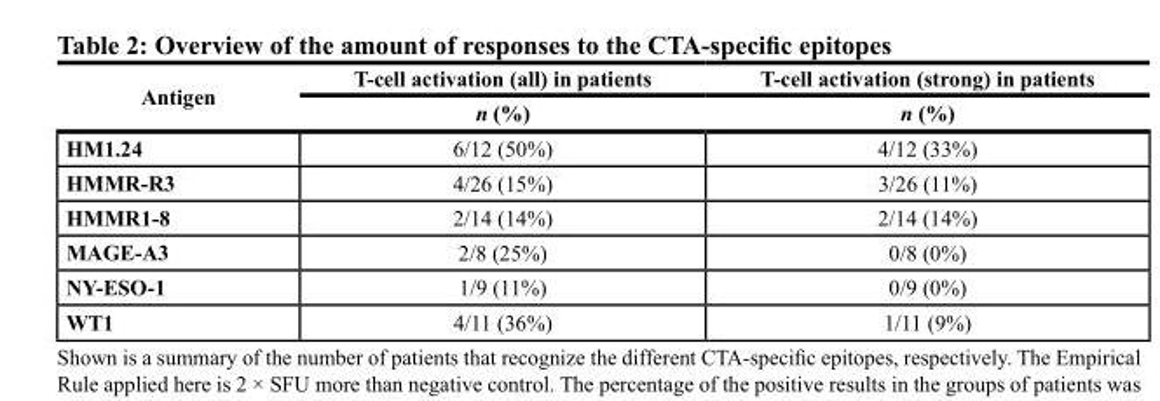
<table><thead><tr><td rowspan="2">Antigen</td><td rowspan="2">T-cell activation (all) in patients n (%)</td><td rowspan="2">T-cell activation (strong) in patients n (%)</td></tr><tr></tr></thead><tbody><tr><td>HM1.24</td><td>6/12 (50%)</td><td>4/12 (33%)</td></tr><tr><td>HMMR-R3</td><td>4/26 (15%)</td><td>3/26 (11%)</td></tr><tr><td>HMMR1-8</td><td>2/14 (14%)</td><td>2/14 (14%)</td></tr><tr><td>MAGE-A3</td><td>2/8 (25%)</td><td>0/8 (0%)</td></tr><tr><td>NY-ESO-1</td><td>1/9 (11%)</td><td>0/9 (0%)</td></tr><tr><td>WT1</td><td>4/11 (36%)</td><td>1/11 (9%)</td></tr></tbody></table>